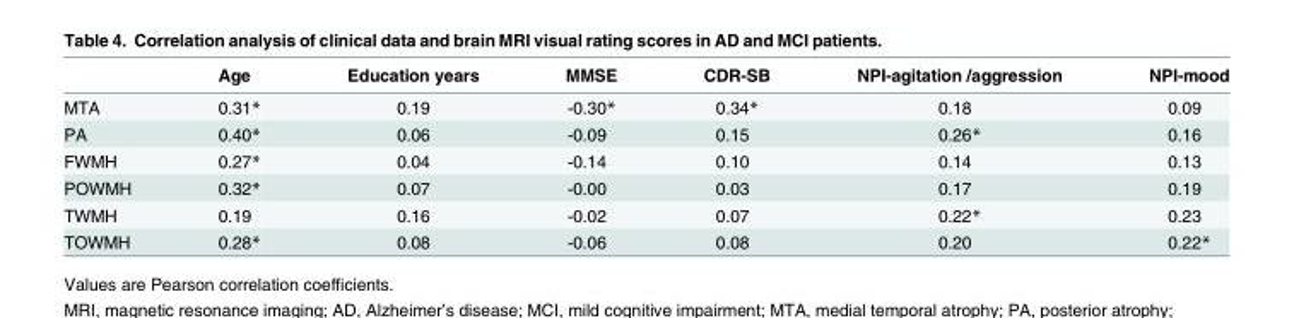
<table><thead><tr><td></td><td>Age</td><td>Education years</td><td>MMSE</td><td>CDR-SB</td><td>NPI-agitation /aggression</td><td>NPI-mood</td></tr></thead><tbody><tr><td>MTA</td><td>0.31*</td><td>0.19</td><td>-0.30*</td><td>0.34*</td><td>0.18</td><td>0.09</td></tr><tr><td>PA</td><td>0.40*</td><td>0.06</td><td>-0.09</td><td>0.15</td><td>0.26*</td><td>0.16</td></tr><tr><td>FWMH</td><td>0.27*</td><td>0.04</td><td>-0.14</td><td>0.10</td><td>0.14</td><td>0.13</td></tr><tr><td>POWMH</td><td>0.32*</td><td>0.07</td><td>-0.00</td><td>0.03</td><td>0.17</td><td>0.19</td></tr><tr><td>TWMH</td><td>0.19</td><td>0.16</td><td>-0.02</td><td>0.07</td><td>0.22*</td><td>0.23</td></tr><tr><td>TOWMH</td><td>0.28*</td><td>0.08</td><td>-0.06</td><td>0.08</td><td>0.20</td><td>0.22*</td></tr></tbody></table>